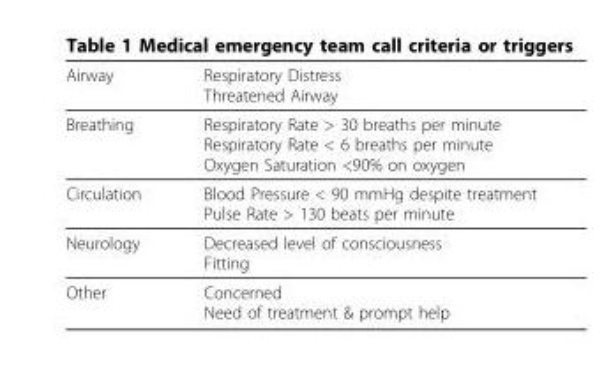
<table><thead><tr><td>Airway</td><td>Respiratory Distress Threatened Airway</td></tr></thead><tbody><tr><td>Breathing</td><td>Respiratory Rate &gt; 30 breaths per minute Respiratory Rate &lt; 6 breaths per minute Oxygen Saturation &lt;90% on oxygen</td></tr><tr><td>Circulation</td><td>Blood Pressure &lt; 90 mmHg despite treatment Pulse Rate &gt; 130 beats per minute</td></tr><tr><td>Neurology</td><td>Decreased level of consciousness Fitting</td></tr><tr><td>Other</td><td>Concerned Need of treatment &amp; prompt help</td></tr></tbody></table>